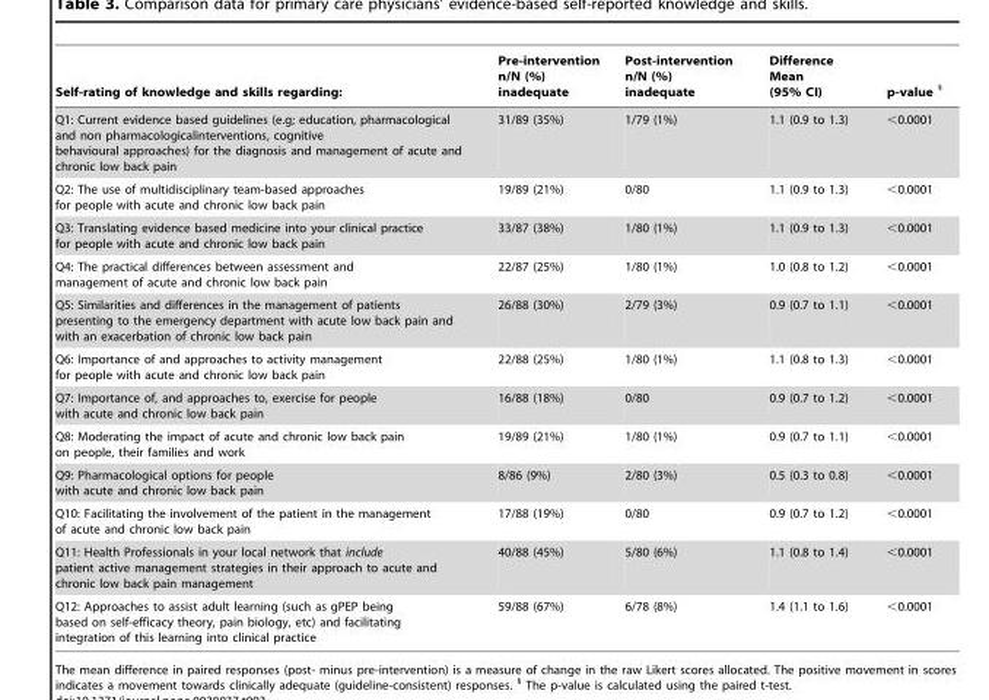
<table><thead><tr><td>Self-rating of knowledge and skills regarding:</td><td>Pre-intervention n/N (%) inadequate</td><td>Post-intervention n/N (%) inadequate</td><td>Difference Mean (95% CI)</td><td>p-value</td></tr></thead><tbody><tr><td>Q1: Current evidence based guidelines (e.g; education, pharmacological and non pharmacologicalinterventions, cognitive behavioural approaches) for the diagnosis and management of acute and chronic low back pain</td><td>31/89 (35%)</td><td>1/79 (1%)</td><td>1.1 (0.9 to 1.3)</td><td>&lt;0.0001</td></tr><tr><td>Q2: The use of multidisciplinary team-based approaches for people with acute and chronic low back pain</td><td>19/89 (21%)</td><td>0/80</td><td>1.1 (0.9 to 1.3)</td><td>&lt;0.0001</td></tr><tr><td>Q3: Translating evidence based medicine into your clinical practice for people with acute and chronic low back pain</td><td>33/87 (38%)</td><td>1/80 (1%)</td><td>1.1 (0.9 to 1.3)</td><td>&lt;0.0001</td></tr><tr><td>Q4: The practical differences between assessment and management of acute and chronic low back pain</td><td>22/87 (25%)</td><td>1/80 (1%)</td><td>1.0 (0.8 to 1.2)</td><td>&lt;0.0001</td></tr><tr><td>Q5: Similarities and differences in the management of patients presenting to the emergency department with acute low back pain and with an exacerbation of chronic low back pain</td><td>26/88 (30%)</td><td>2/79 (3%)</td><td>0.9 (0.7 to 1.1)</td><td>&lt;0.0001</td></tr><tr><td>Q6: Importance of and approaches to activity management for people with acute and chronic low back pain</td><td>22/88 (25%)</td><td>1/80 (1%)</td><td>1.1 (0.8 to 1.3)</td><td>&lt;0.0001</td></tr><tr><td>Q7: Importance of, and approaches to, exercise for people with acute and chronic low back pain</td><td>16/88 (18%)</td><td>0/80</td><td>0.9 (0.7 to 1.2)</td><td>&lt;0.0001</td></tr><tr><td>Q8: Moderating the impact of acute and chronic low back pain on people, their families and work</td><td>19/89 (21%)</td><td>1/80 (1%)</td><td>0.9 (0.7 to 1.1)</td><td>&lt;0.0001</td></tr><tr><td>Q9: Pharmacological options for people with acute and chronic low back pain</td><td>8/86 (9%)</td><td>2/80 (3%)</td><td>0.5 (0.3 to 0.8)</td><td>&lt;0.0001</td></tr><tr><td>Q10: Facilitating the involvement of the patient in the management of acute and chronic low back pain</td><td>17/88 (19%)</td><td>0/80</td><td>0.9 (0.7 to 1.2)</td><td>&lt;0.0001</td></tr><tr><td>Q11: Health Professionals in your local network that include patient active management strategies in their approach to acute and chronic low back pain management</td><td>40/88 (45%)</td><td>5/80 (6%)</td><td>1.1 (0.8 to 1.4)</td><td>&lt;0.0001</td></tr><tr><td>Q12: Approaches to assist adult learning (such as gPEP being based on self-efficacy theory, pain biology, etc) and facilitating integration of this learning into clinical practice</td><td>59/88 (67%)</td><td>6/78 (8%)</td><td>1.4 (1.1 to 1.6)</td><td>&lt;0.0001</td></tr></tbody></table>